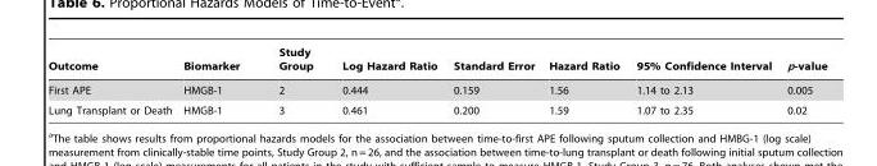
<table><thead><tr><td>Outcome</td><td>Biomarker</td><td>Study Group</td><td>Log Hazard Ratio</td><td>Standard Error</td><td>Hazard Ratio</td><td>95% Confidence Interval</td><td>p-value</td></tr></thead><tbody><tr><td>First APE</td><td>HMGB-1</td><td>2</td><td>0.444</td><td>0.159</td><td>1.56</td><td>1.14 to 2.13</td><td>0.005</td></tr><tr><td>Lung Transplant or Death</td><td>HMGB-1</td><td>3</td><td>0.461</td><td>0.200</td><td>1.59</td><td>1.07 to 2.35</td><td>0.02</td></tr></tbody></table>